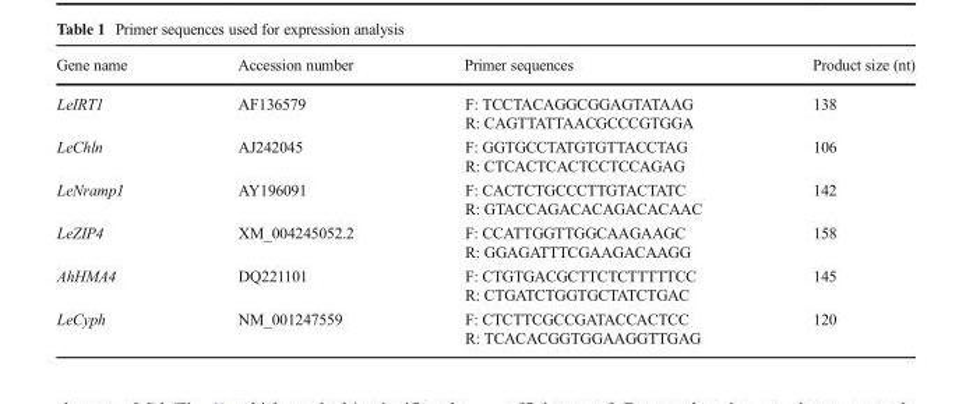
<table><thead><tr><td>Gene name</td><td>Accession number</td><td>Primer sequences</td><td>Product size (nt)</td></tr></thead><tbody><tr><td rowspan="2">LeIRT1</td><td rowspan="2">AF136579</td><td>F: TCCTACAGGCGGAGTATAAG</td><td rowspan="2">138</td></tr><tr><td>R: CAGTTATTAACGCCCGTGGA</td></tr><tr><td rowspan="2">LeChln</td><td rowspan="2">AJ242045</td><td>F: GGTGCCTATGTGTTACCTAG</td><td rowspan="2">106</td></tr><tr><td>R: CTCACTCACTCCTCCAGAG</td></tr><tr><td rowspan="2">LeNramp1</td><td rowspan="2">AY196091</td><td>F: CACTCTGCCCTTGTACTATC</td><td rowspan="2">142</td></tr><tr><td>R: GTACCAGACACAGACACAAC</td></tr><tr><td rowspan="2">LeZIP4</td><td rowspan="2">XM_004245052.2</td><td>F: CCATTGGTTGGCAAGAAGC</td><td rowspan="2">158</td></tr><tr><td>R: GGAGATTTCGAAGACAAGG</td></tr><tr><td rowspan="2">AhHMA4</td><td rowspan="2">DQ221101</td><td>F: CTGTGACGCTTCTCTTTTTCC</td><td rowspan="2">145</td></tr><tr><td>R: CTGATCTGGTGCTATCTGAC</td></tr><tr><td rowspan="2">LeCyph</td><td rowspan="2">NM_001247559</td><td>F: CTCTTCGCCGATACCACTCC</td><td rowspan="2">120</td></tr><tr><td>R: TCACACGGTGGAAGGTTGAG</td></tr></tbody></table>